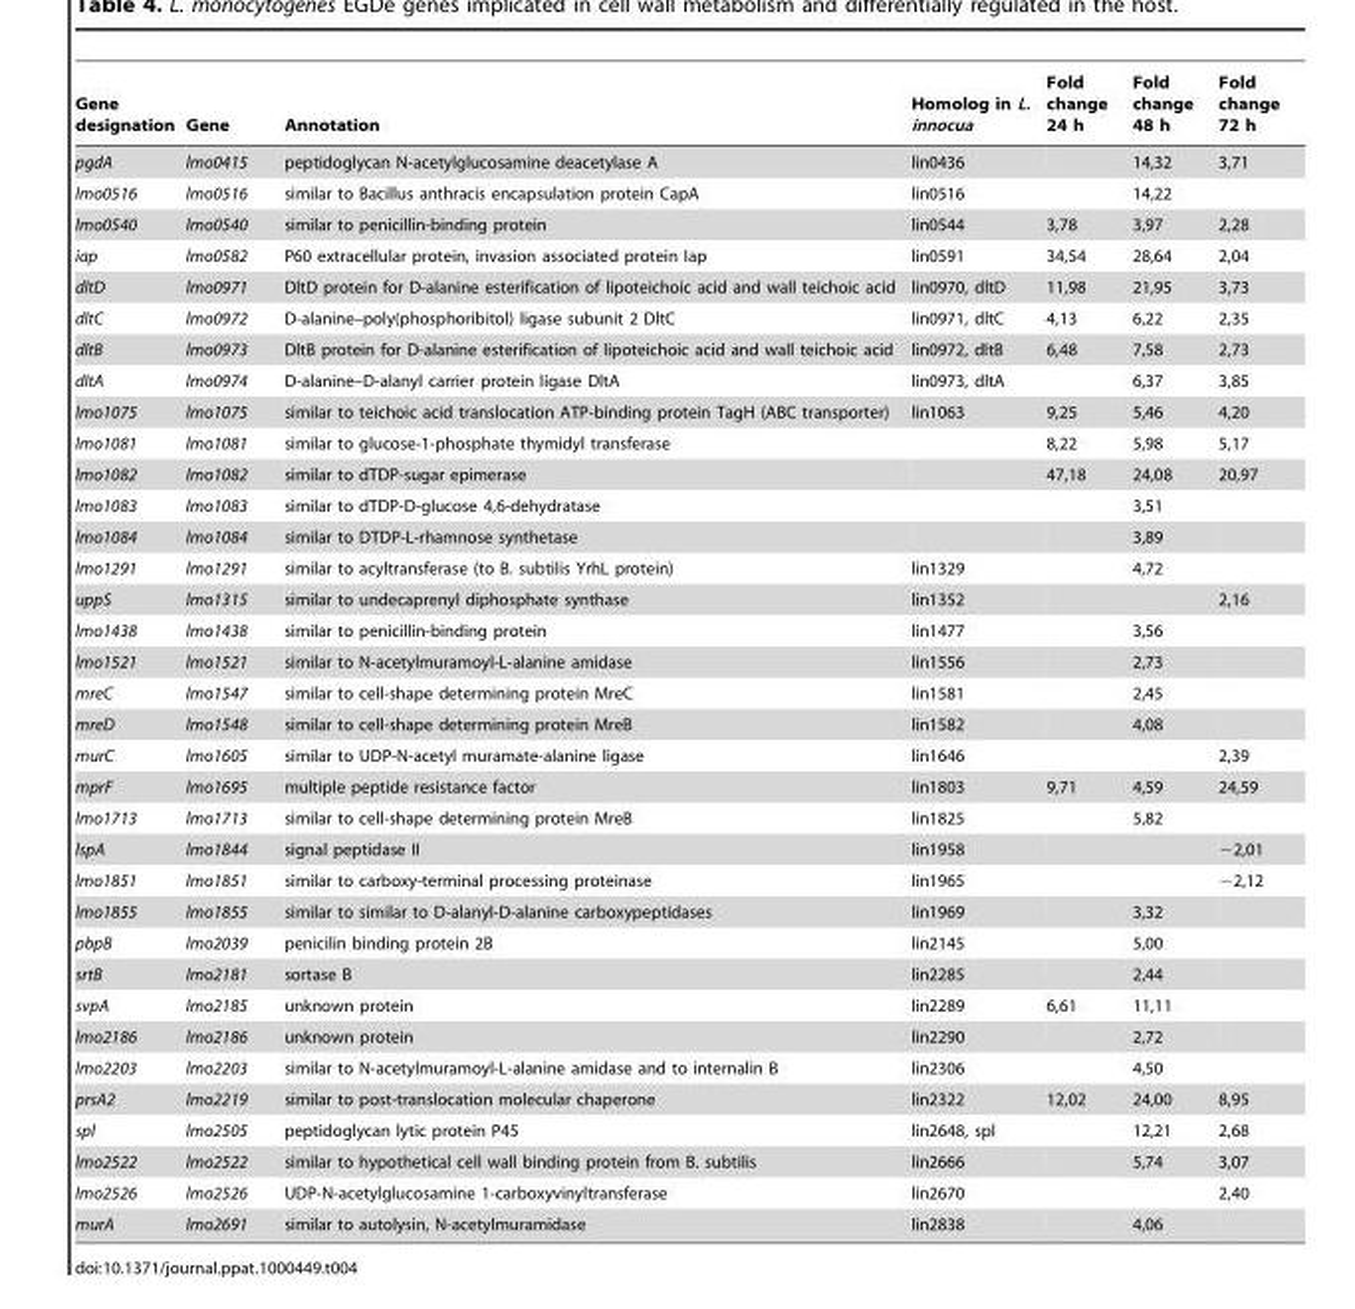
<table><thead><tr><td>Gene designation</td><td>Gene</td><td>Annotation</td><td>Homolog in L. innocua</td><td>Fold change 24 h</td><td>Fold change 48 h</td><td>Fold change 72 h</td></tr></thead><tbody><tr><td>pgdA</td><td>lmo0415</td><td>peptidoglycan N-acetylglucosamine deacetylase A</td><td>lin0436</td><td></td><td>14,32</td><td>3,71</td></tr><tr><td>lmo0516</td><td>lmo0516</td><td>similar to Bacillus anthracis encapsulation protein CapA</td><td>lin0516</td><td></td><td>14,22</td><td></td></tr><tr><td>lmo0540</td><td>lmo0540</td><td>similar to penicillin-binding protein</td><td>lin0544</td><td>3,78</td><td>3,97</td><td>2,28</td></tr><tr><td>iap</td><td>lmo0582</td><td>P60 extracellular protein, invasion associated protein Iap</td><td>lin0591</td><td>34,54</td><td>28,64</td><td>2,04</td></tr><tr><td>dltD</td><td>lmo0971</td><td>DltD protein for D-alanine esterification of lipoteichoic acid and wall teichoic acid</td><td>lin0970, dltD</td><td>11,98</td><td>21,95</td><td>3,73</td></tr><tr><td>dltC</td><td>lmo0972</td><td>D-alanine–poly(phosphoribitol) ligase subunit 2 DltC</td><td>lin0971, dltC</td><td>4,13</td><td>6,22</td><td>2,35</td></tr><tr><td>dltB</td><td>lmo0973</td><td>DltB protein for D-alanine esterification of lipoteichoic acid and wall teichoic acid</td><td>lin0972, dltB</td><td>6,48</td><td>7,58</td><td>2,73</td></tr><tr><td>dltA</td><td>lmo0974</td><td>D-alanine–D-alanyl carrier protein ligase DltA</td><td>lin0973, dltA</td><td></td><td>6,37</td><td>3,85</td></tr><tr><td>lmo1075</td><td>lmo1075</td><td>similar to teichoic acid translocation ATP-binding protein TagH (ABC transporter)</td><td>lin1063</td><td>9,25</td><td>5,46</td><td>4,20</td></tr><tr><td>lmo1081</td><td>lmo1081</td><td>similar to glucose-1-phosphate thymidyl transferase</td><td></td><td>8,22</td><td>5,98</td><td>5,17</td></tr><tr><td>lmo1082</td><td>lmo1082</td><td>similar to dTDP-sugar epimerase</td><td></td><td>47,18</td><td>24,08</td><td>20,97</td></tr><tr><td>lmo1083</td><td>lmo1083</td><td>similar to dTDP-D-glucose 4,6-dehydratase</td><td></td><td></td><td>3,51</td><td></td></tr><tr><td>lmo1084</td><td>lmo1084</td><td>similar to DTDP-L-rhamnose synthetase</td><td></td><td></td><td>3,89</td><td></td></tr><tr><td>lmo1291</td><td>lmo1291</td><td>similar to acyltransferase (to B. subtilis YrhL protein)</td><td>lin1329</td><td></td><td>4,72</td><td></td></tr><tr><td>uppS</td><td>lmo1315</td><td>similar to undecaprenyl diphosphate synthase</td><td>lin1352</td><td></td><td></td><td>2,16</td></tr><tr><td>lmo1438</td><td>lmo1438</td><td>similar to penicillin-binding protein</td><td>lin1477</td><td></td><td>3,56</td><td></td></tr><tr><td>lmo1521</td><td>lmo1521</td><td>similar to N-acetylmuramoyl-L-alanine amidase</td><td>lin1556</td><td></td><td>2,73</td><td></td></tr><tr><td>mreC</td><td>lmo1547</td><td>similar to cell-shape determining protein MreC</td><td>lin1581</td><td></td><td>2,45</td><td></td></tr><tr><td>mreD</td><td>lmo1548</td><td>similar to cell-shape determining protein MreB</td><td>lin1582</td><td></td><td>4,08</td><td></td></tr><tr><td>murC</td><td>lmo1605</td><td>similar to UDP-N-acetyl muramate-alanine ligase</td><td>lin1646</td><td></td><td></td><td>2,39</td></tr><tr><td>mprF</td><td>lmo1695</td><td>multiple peptide resistance factor</td><td>lin1803</td><td>9,71</td><td>4,59</td><td>24,59</td></tr><tr><td>lmo1713</td><td>lmo1713</td><td>similar to cell-shape determining protein MreB</td><td>lin1825</td><td></td><td>5,82</td><td></td></tr><tr><td>lspA</td><td>lmo1844</td><td>signal peptidase II</td><td>lin1958</td><td></td><td></td><td>−2,01</td></tr><tr><td>lmo1851</td><td>lmo1851</td><td>similar to carboxy-terminal processing proteinase</td><td>lin1965</td><td></td><td></td><td>−2,12</td></tr><tr><td>lmo1855</td><td>lmo1855</td><td>similar to similar to D-alanyl-D-alanine carboxypeptidases</td><td>lin1969</td><td></td><td>3,32</td><td></td></tr><tr><td>pbpB</td><td>lmo2039</td><td>penicilin binding protein 2B</td><td>lin2145</td><td></td><td>5,00</td><td></td></tr><tr><td>srtB</td><td>lmo2181</td><td>sortase B</td><td>lin2285</td><td></td><td>2,44</td><td></td></tr><tr><td>svpA</td><td>lmo2185</td><td>unknown protein</td><td>lin2289</td><td>6,61</td><td>11,11</td><td></td></tr><tr><td>lmo2186</td><td>lmo2186</td><td>unknown protein</td><td>lin2290</td><td></td><td>2,72</td><td></td></tr><tr><td>lmo2203</td><td>lmo2203</td><td>similar to N-acetylmuramoyl-L-alanine amidase and to internalin B</td><td>lin2306</td><td></td><td>4,50</td><td></td></tr><tr><td>prsA2</td><td>lmo2219</td><td>similar to post-translocation molecular chaperone</td><td>lin2322</td><td>12,02</td><td>24,00</td><td>8,95</td></tr><tr><td>spl</td><td>lmo2505</td><td>peptidoglycan lytic protein P45</td><td>lin2648, spl</td><td></td><td>12,21</td><td>2,68</td></tr><tr><td>lmo2522</td><td>lmo2522</td><td>similar to hypothetical cell wall binding protein from B. subtilis</td><td>lin2666</td><td></td><td>5,74</td><td>3,07</td></tr><tr><td>lmo2526</td><td>lmo2526</td><td>UDP-N-acetylglucosamine 1-carboxyvinyltransferase</td><td>lin2670</td><td></td><td></td><td>2,40</td></tr><tr><td>murA</td><td>lmo2691</td><td>similar to autolysin, N-acetylmuramidase</td><td>lin2838</td><td></td><td>4,06</td><td></td></tr></tbody></table>